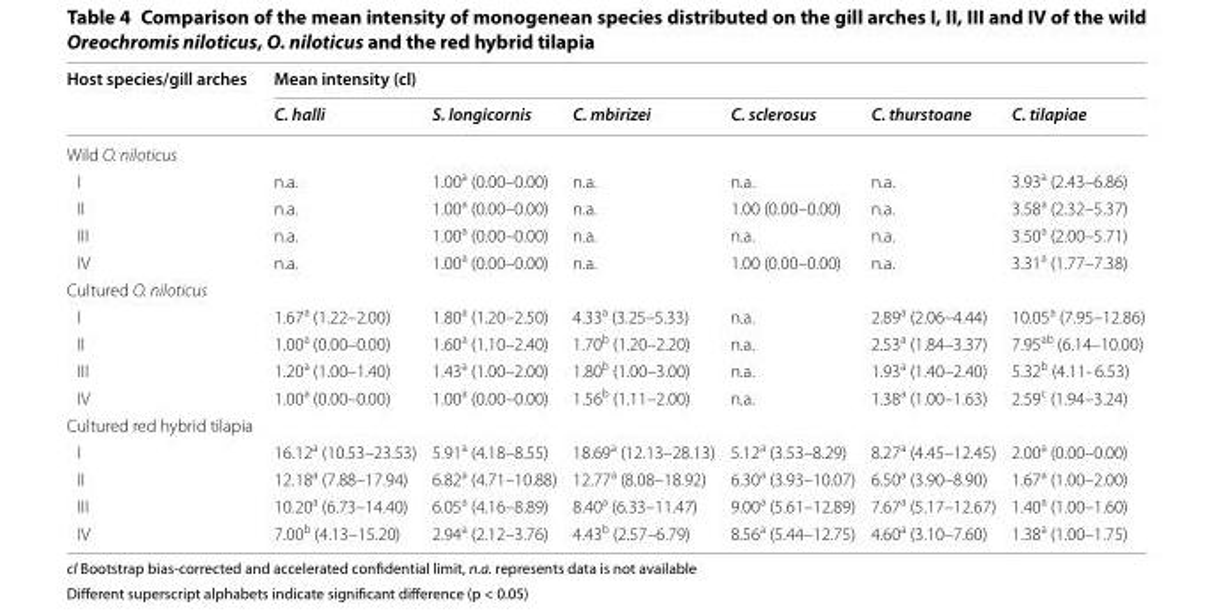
<table><thead><tr><td rowspan="2">Host species/gill arches</td><td colspan="6">Mean intensity (cl)</td></tr><tr><td>C. halli</td><td>S. longicornis</td><td>C. mbirizei</td><td>C. sclerosus</td><td>C. thurstoane</td><td>C. tilapiae</td></tr></thead><tbody><tr><td colspan="7">Wild O. niloticus</td></tr><tr><td>I</td><td>n.a.</td><td>1.00<sup>a</sup> (0.00–0.00)</td><td>n.a.</td><td>n.a.</td><td>n.a.</td><td>3.93<sup>a</sup> (2.43–6.86)</td></tr><tr><td>II</td><td>n.a.</td><td>1.00<sup>a</sup> (0.00–0.00)</td><td>n.a.</td><td>1.00 (0.00–0.00)</td><td>n.a.</td><td>3.58<sup>a</sup> (2.32–5.37)</td></tr><tr><td>III</td><td>n.a.</td><td>1.00<sup>a</sup> (0.00–0.00)</td><td>n.a.</td><td>n.a.</td><td>n.a.</td><td>3.50<sup>a</sup> (2.00–5.71)</td></tr><tr><td>IV</td><td>n.a.</td><td>1.00<sup>a</sup> (0.00–0.00)</td><td>n.a.</td><td>1.00 (0.00–0.00)</td><td>n.a.</td><td>3.31<sup>a</sup> (1.77–7.38)</td></tr><tr><td colspan="7">Cultured O. niloticus</td></tr><tr><td>I</td><td>1.67<sup>a</sup> (1.22–2.00)</td><td>1.80<sup>a</sup> (1.20–2.50)</td><td>4.33<sup>a</sup> (3.25–5.33)</td><td>n.a.</td><td>2.89<sup>a</sup> (2.06–4.44)</td><td>10.05<sup>a</sup> (7.95–12.86)</td></tr><tr><td>II</td><td>1.00<sup>a</sup> (0.00–0.00)</td><td>1.60<sup>a</sup> (1.10–2.40)</td><td>1.70<sup>b</sup> (1.20–2.20)</td><td>n.a.</td><td>2.53<sup>a</sup> (1.84–3.37)</td><td>7.95<sup>ab</sup> (6.14–10.00)</td></tr><tr><td>III</td><td>1.20<sup>a</sup> (1.00–1.40)</td><td>1.43<sup>a</sup> (1.00–2.00)</td><td>1.80<sup>b</sup> (1.00–3.00)</td><td>n.a.</td><td>1.93<sup>a</sup> (1.40–2.40)</td><td>5.32<sup>b</sup> (4.11‑ 6.53)</td></tr><tr><td>IV</td><td>1.00<sup>a</sup> (0.00–0.00)</td><td>1.00<sup>a</sup> (0.00–0.00)</td><td>1.56<sup>b</sup> (1.11–2.00)</td><td>n.a.</td><td>1.38<sup>a</sup> (1.00–1.63)</td><td>2.59<sup>c</sup> (1.94–3.24)</td></tr><tr><td colspan="7">Cultured red hybrid tilapia</td></tr><tr><td>I</td><td>16.12<sup>a</sup> (10.53–23.53)</td><td>5.91<sup>a</sup> (4.18–8.55)</td><td>18.69<sup>a</sup> (12.13–28.13)</td><td>5.12<sup>a</sup> (3.53–8.29)</td><td>8.27<sup>a</sup> (4.45–12.45)</td><td>2.00<sup>a</sup> (0.00–0.00)</td></tr><tr><td>II</td><td>12.18<sup>a</sup> (7.88–17.94)</td><td>6.82<sup>a</sup> (4.71–10.88)</td><td>12.77<sup>a</sup> (8.08–18.92)</td><td>6.30<sup>a</sup> (3.93–10.07)</td><td>6.50<sup>a</sup> (3.90–8.90)</td><td>1.67<sup>a</sup> (1.00–2.00)</td></tr><tr><td>III</td><td>10.20<sup>a</sup> (6.73–14.40)</td><td>6.05<sup>a</sup> (4.16–8.89)</td><td>8.40<sup>a</sup> (6.33–11.47)</td><td>9.00<sup>a</sup> (5.61–12.89)</td><td>7.67<sup>a</sup> (5.17–12.67)</td><td>1.40<sup>a</sup> (1.00–1.60)</td></tr><tr><td>IV</td><td>7.00<sup>b</sup> (4.13–15.20)</td><td>2.94<sup>a</sup> (2.12–3.76)</td><td>4.43<sup>b</sup> (2.57–6.79)</td><td>8.56<sup>a</sup> (5.44–12.75)</td><td>4.60<sup>a</sup> (3.10–7.60)</td><td>1.38<sup>a</sup> (1.00–1.75)</td></tr></tbody></table>